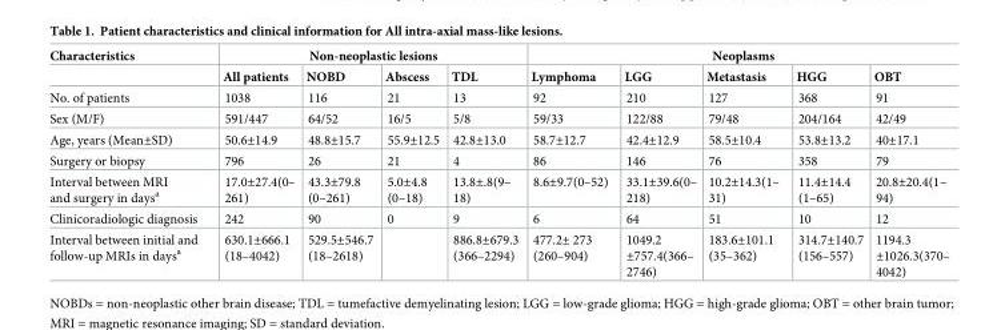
<table><thead><tr><td rowspan="2">Characteristics</td><td colspan="4">Non-neoplastic lesions</td><td colspan="5">Neoplasms</td></tr><tr><td>All patients</td><td>NOBD</td><td>Abscess</td><td>TDL</td><td>Lymphoma</td><td>LGG</td><td>Metastasis</td><td>HGG</td><td>OBT</td></tr></thead><tbody><tr><td>No. of patients</td><td>1038</td><td>116</td><td>21</td><td>13</td><td>92</td><td>210</td><td>127</td><td>368</td><td>91</td></tr><tr><td>Sex (M/F)</td><td>591/447</td><td>64/52</td><td>16/5</td><td>5/8</td><td>59/33</td><td>122/88</td><td>79/48</td><td>204/164</td><td>42/49</td></tr><tr><td>Age, years (Mean±SD)</td><td>50.6±14.9</td><td>48.8±15.7</td><td>55.9±12.5</td><td>42.8±13.0</td><td>58.7±12.7</td><td>42.4±12.9</td><td>58.5±10.4</td><td>53.8±13.2</td><td>40±17.1</td></tr><tr><td>Surgery or biopsy</td><td>796</td><td>26</td><td>21</td><td>4</td><td>86</td><td>146</td><td>76</td><td>358</td><td>79</td></tr><tr><td>Interval between MRI and surgery in days<sup>a</sup></td><td>17.0±27.4(0– 261)</td><td>43.3±79.8 (0–261)</td><td>5.0±4.8 (0–18)</td><td>13.8±.8(9– 18)</td><td>8.6±9.7(0–52)</td><td>33.1±39.6(0– 218)</td><td>10.2±14.3(1– 31)</td><td>11.4±14.4 (1–65)</td><td>20.8±20.4(1– 94)</td></tr><tr><td>Clinicoradiologic diagnosis</td><td>242</td><td>90</td><td>0</td><td>9</td><td>6</td><td>64</td><td>51</td><td>10</td><td>12</td></tr><tr><td>Interval between initial and follow-up MRIs in days<sup>a</sup></td><td>630.1±666.1 (18–4042)</td><td>529.5±546.7 (18–2618)</td><td></td><td>886.8±679.3 (366–2294)</td><td>477.2± 273 (260–904)</td><td>1049.2 ±757.4(366– 2746)</td><td>183.6±101.1 (35–362)</td><td>314.7±140.7 (156–557)</td><td>1194.3 ±1026.3(370– 4042)</td></tr></tbody></table>